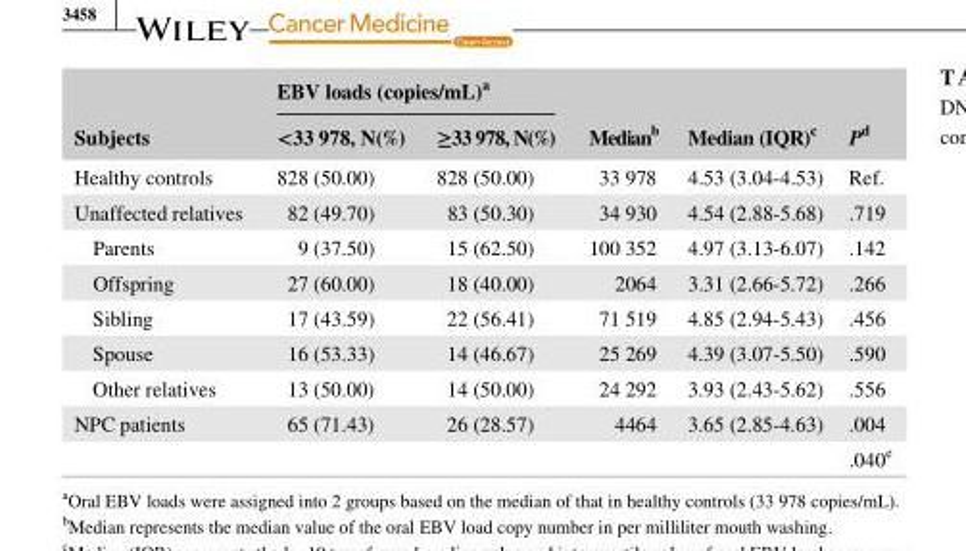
<table><thead><tr><td rowspan="2">Subjects</td><td colspan="2">EBV loads (copies/mL)<sup>a</sup></td><td rowspan="2">Median<sup>b</sup></td><td rowspan="2">Median (IQR)<sup>c</sup></td><td rowspan="2">Pd</td></tr><tr><td>&lt;33 978, N(%)</td><td>≥33 978, N(%)</td></tr></thead><tbody><tr><td>Healthy controls</td><td>828 (50.00)</td><td>828 (50.00)</td><td>33 978</td><td>4.53 (3.04- 4.53)</td><td>Ref.</td></tr><tr><td>Unaffected relatives</td><td>82 (49.70)</td><td>83 (50.30)</td><td>34 930</td><td>4.54 (2.88- 5.68)</td><td>.719</td></tr><tr><td>Parents</td><td>9 (37.50)</td><td>15 (62.50)</td><td>100 352</td><td>4.97 (3.13- 6.07)</td><td>.142</td></tr><tr><td>Offspring</td><td>27 (60.00)</td><td>18 (40.00)</td><td>2064</td><td>3.31 (2.66- 5.72)</td><td>.266</td></tr><tr><td>Sibling</td><td>17 (43.59)</td><td>22 (56.41)</td><td>71 519</td><td>4.85 (2.94- 5.43)</td><td>.456</td></tr><tr><td>Spouse</td><td>16 (53.33)</td><td>14 (46.67)</td><td>25 269</td><td>4.39 (3.07- 5.50)</td><td>.590</td></tr><tr><td>Other relatives</td><td>13 (50.00)</td><td>14 (50.00)</td><td>24 292</td><td>3.93 (2.43- 5.62)</td><td>.556</td></tr><tr><td rowspan="2">NPC patients</td><td>65 (71.43)</td><td>26 (28.57)</td><td>4464</td><td>3.65 (2.85- 4.63)</td><td>.004</td></tr><tr><td></td><td></td><td></td><td></td><td>.040<sup>e</sup></td></tr></tbody></table>